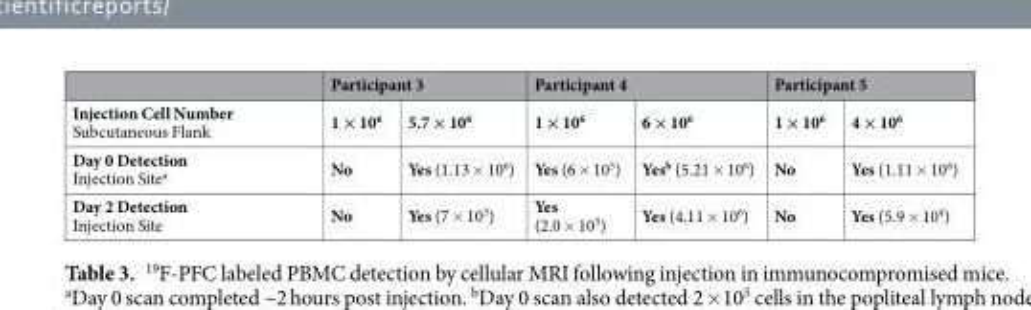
<table><thead><tr><td rowspan="2">Injection Cell Number Subcutaneous Flank</td><td colspan="2">Participant 3</td><td colspan="2">Participant 4</td><td colspan="2">Participant 5</td></tr><tr><td>1 × 10<sup>6</sup></td><td>5.7 × 10<sup>6</sup></td><td>1 × 10<sup>6</sup></td><td>6 × 10<sup>6</sup></td><td>1 × 10<sup>6</sup></td><td>4 × 10<sup>6</sup></td></tr></thead><tbody><tr><td>Day 0 Detection Injection Site<sup>a</sup></td><td>No</td><td>Yes (1.13 × 10<sup>6</sup>)</td><td>Yes (6 × 10<sup>5</sup>)</td><td>Yes<sup>b</sup> (5.21 × 10<sup>6</sup>)</td><td>No</td><td>Yes (1.11 × 10<sup>6</sup>)</td></tr><tr><td>Day 2 Detection Injection Site</td><td>No</td><td>Yes (7 × 10<sup>5</sup>)</td><td>Yes (2.0 × 10<sup>5</sup>)</td><td>Yes (4.11 × 10<sup>6</sup>)</td><td>No</td><td>Yes (5.9 × 10<sup>4</sup>)</td></tr></tbody></table>